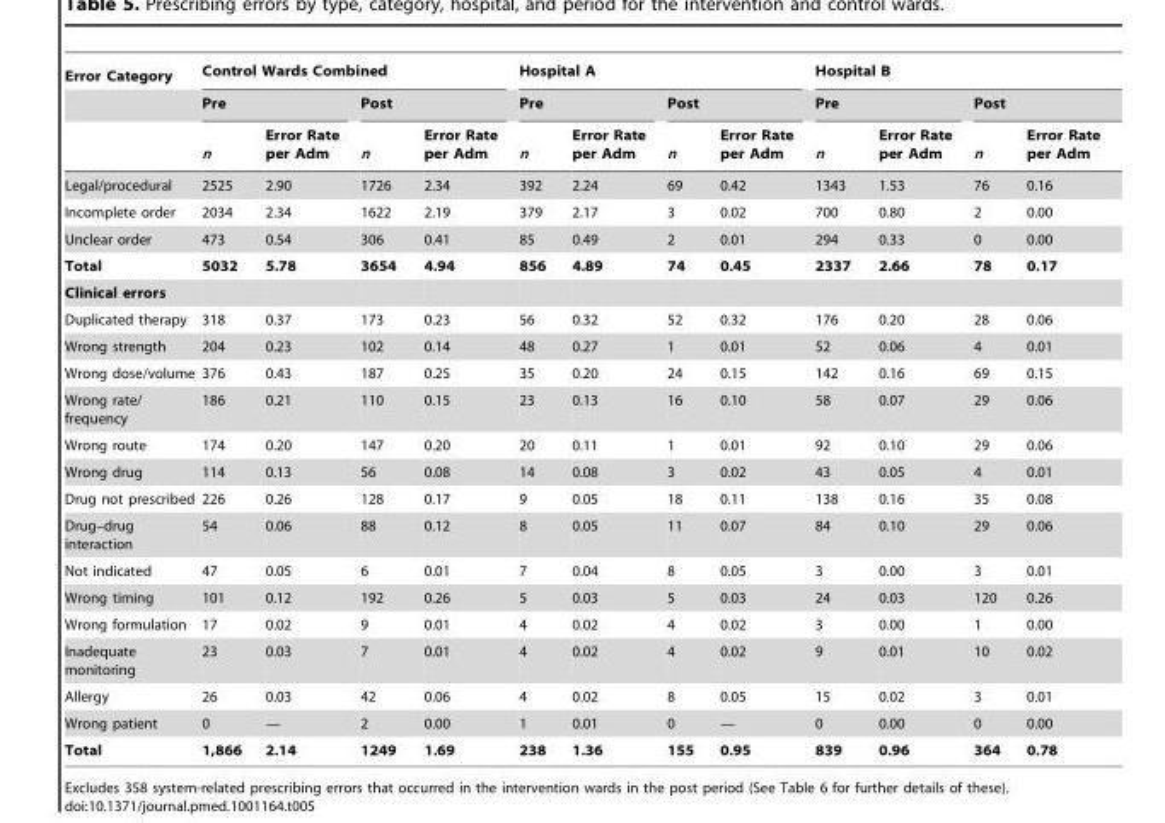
<table><thead><tr><td rowspan="3">Error Category</td><td colspan="4">Control Wards Combined</td><td colspan="4">Hospital A</td><td colspan="4">Hospital B</td></tr><tr><td colspan="2">Pre</td><td colspan="2">Post</td><td colspan="2">Pre</td><td colspan="2">Post</td><td colspan="2">Pre</td><td colspan="2">Post</td></tr><tr><td>n</td><td>Error Rate per Adm</td><td>n</td><td>Error Rate per Adm</td><td>n</td><td>Error Rate per Adm</td><td>n</td><td>Error Rate per Adm</td><td>n</td><td>Error Rate per Adm</td><td>n</td><td>Error Rate per Adm</td></tr></thead><tbody><tr><td>Legal/procedural</td><td>2525</td><td>2.90</td><td>1726</td><td>2.34</td><td>392</td><td>2.24</td><td>69</td><td>0.42</td><td>1343</td><td>1.53</td><td>76</td><td>0.16</td></tr><tr><td>Incomplete order</td><td>2034</td><td>2.34</td><td>1622</td><td>2.19</td><td>379</td><td>2.17</td><td>3</td><td>0.02</td><td>700</td><td>0.80</td><td>2</td><td>0.00</td></tr><tr><td>Unclear order</td><td>473</td><td>0.54</td><td>306</td><td>0.41</td><td>85</td><td>0.49</td><td>2</td><td>0.01</td><td>294</td><td>0.33</td><td>0</td><td>0.00</td></tr><tr><td>Total</td><td>5032</td><td>5.78</td><td>3654</td><td>4.94</td><td>856</td><td>4.89</td><td>74</td><td>0.45</td><td>2337</td><td>2.66</td><td>78</td><td>0.17</td></tr><tr><td colspan="13">Clinical errors</td></tr><tr><td>Duplicated therapy</td><td>318</td><td>0.37</td><td>173</td><td>0.23</td><td>56</td><td>0.32</td><td>52</td><td>0.32</td><td>176</td><td>0.20</td><td>28</td><td>0.06</td></tr><tr><td>Wrong strength</td><td>204</td><td>0.23</td><td>102</td><td>0.14</td><td>48</td><td>0.27</td><td>1</td><td>0.01</td><td>52</td><td>0.06</td><td>4</td><td>0.01</td></tr><tr><td>Wrong dose/volume</td><td>376</td><td>0.43</td><td>187</td><td>0.25</td><td>35</td><td>0.20</td><td>24</td><td>0.15</td><td>142</td><td>0.16</td><td>69</td><td>0.15</td></tr><tr><td>Wrong rate/ frequency</td><td>186</td><td>0.21</td><td>110</td><td>0.15</td><td>23</td><td>0.13</td><td>16</td><td>0.10</td><td>58</td><td>0.07</td><td>29</td><td>0.06</td></tr><tr><td>Wrong route</td><td>174</td><td>0.20</td><td>147</td><td>0.20</td><td>20</td><td>0.11</td><td>1</td><td>0.01</td><td>92</td><td>0.10</td><td>29</td><td>0.06</td></tr><tr><td>Wrong drug</td><td>114</td><td>0.13</td><td>56</td><td>0.08</td><td>14</td><td>0.08</td><td>3</td><td>0.02</td><td>43</td><td>0.05</td><td>4</td><td>0.01</td></tr><tr><td>Drug not prescribed</td><td>226</td><td>0.26</td><td>128</td><td>0.17</td><td>9</td><td>0.05</td><td>18</td><td>0.11</td><td>138</td><td>0.16</td><td>35</td><td>0.08</td></tr><tr><td>Drug–drug interaction</td><td>54</td><td>0.06</td><td>88</td><td>0.12</td><td>8</td><td>0.05</td><td>11</td><td>0.07</td><td>84</td><td>0.10</td><td>29</td><td>0.06</td></tr><tr><td>Not indicated</td><td>47</td><td>0.05</td><td>6</td><td>0.01</td><td>7</td><td>0.04</td><td>8</td><td>0.05</td><td>3</td><td>0.00</td><td>3</td><td>0.01</td></tr><tr><td>Wrong timing</td><td>101</td><td>0.12</td><td>192</td><td>0.26</td><td>5</td><td>0.03</td><td>5</td><td>0.03</td><td>24</td><td>0.03</td><td>120</td><td>0.26</td></tr><tr><td>Wrong formulation</td><td>17</td><td>0.02</td><td>9</td><td>0.01</td><td>4</td><td>0.02</td><td>4</td><td>0.02</td><td>3</td><td>0.00</td><td>1</td><td>0.00</td></tr><tr><td>Inadequate monitoring</td><td>23</td><td>0.03</td><td>7</td><td>0.01</td><td>4</td><td>0.02</td><td>4</td><td>0.02</td><td>9</td><td>0.01</td><td>10</td><td>0.02</td></tr><tr><td>Allergy</td><td>26</td><td>0.03</td><td>42</td><td>0.06</td><td>4</td><td>0.02</td><td>8</td><td>0.05</td><td>15</td><td>0.02</td><td>3</td><td>0.01</td></tr><tr><td>Wrong patient</td><td>0</td><td>—</td><td>2</td><td>0.00</td><td>1</td><td>0.01</td><td>0</td><td>—</td><td>0</td><td>0.00</td><td>0</td><td>0.00</td></tr><tr><td>Total</td><td>1,866</td><td>2.14</td><td>1249</td><td>1.69</td><td>238</td><td>1.36</td><td>155</td><td>0.95</td><td>839</td><td>0.96</td><td>364</td><td>0.78</td></tr></tbody></table>